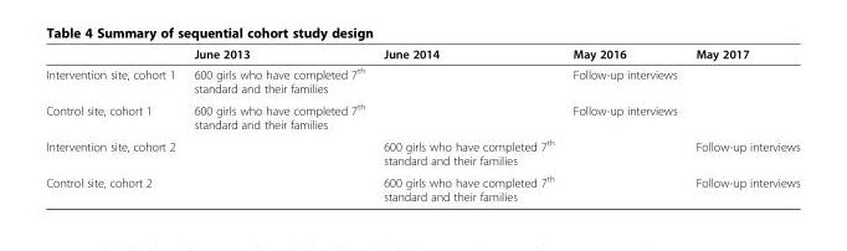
<table><thead><tr><td></td><td>June 2013</td><td>June 2014</td><td>May 2016</td><td>May 2017</td></tr></thead><tbody><tr><td>Intervention site, cohort 1</td><td>600 girls who have completed 7<sup>th</sup> standard and their families</td><td></td><td>Follow-up interviews</td><td></td></tr><tr><td>Control site, cohort 1</td><td>600 girls who have completed 7<sup>th</sup> standard and their families</td><td></td><td>Follow-up interviews</td><td></td></tr><tr><td>Intervention site, cohort 2</td><td></td><td>600 girls who have completed 7<sup>th</sup> standard and their families</td><td></td><td>Follow-up interviews</td></tr><tr><td>Control site, cohort 2</td><td></td><td>600 girls who have completed 7<sup>th</sup> standard and their families</td><td></td><td>Follow-up interviews</td></tr></tbody></table>